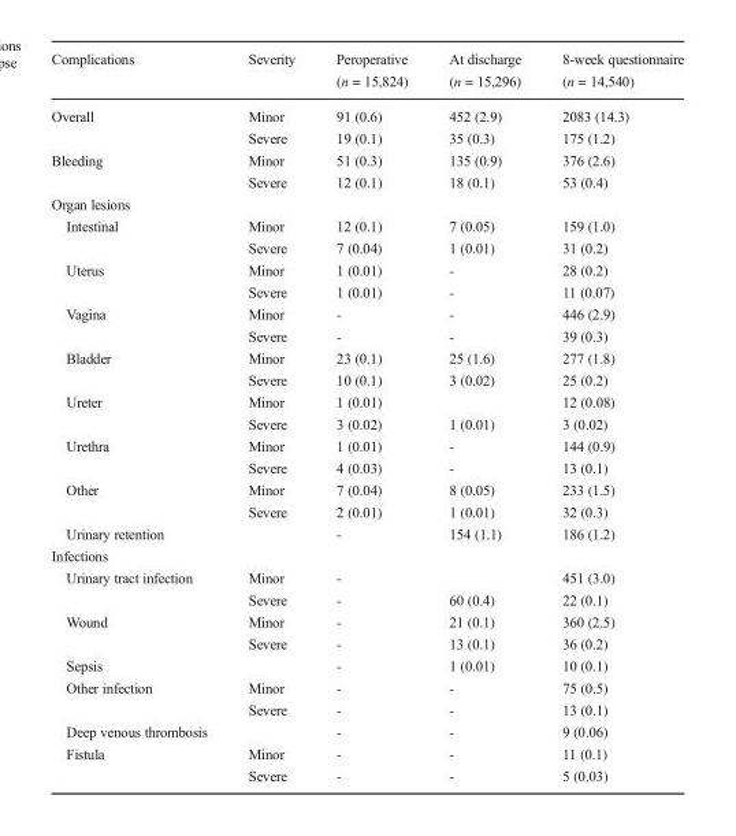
<table><thead><tr><td>Complications</td><td>Severity</td><td>Peroperative (n = 15,824)</td><td>At discharge (n = 15,296)</td><td>8-week questionnaire (n = 14,540)</td></tr></thead><tbody><tr><td rowspan="2">Overall</td><td>Minor</td><td>91 (0.6)</td><td>452 (2.9)</td><td>2083 (14.3)</td></tr><tr><td>Severe</td><td>19 (0.1)</td><td>35 (0.3)</td><td>175 (1.2)</td></tr><tr><td rowspan="2">Bleeding</td><td>Minor</td><td>51 (0.3)</td><td>135 (0.9)</td><td>376 (2.6)</td></tr><tr><td>Severe</td><td>12 (0.1)</td><td>18 (0.1)</td><td>53 (0.4)</td></tr><tr><td colspan="5">Organ lesions</td></tr><tr><td rowspan="2">Intestinal</td><td>Minor</td><td>12 (0.1)</td><td>7 (0.05)</td><td>159 (1.0)</td></tr><tr><td>Severe</td><td>7 (0.04)</td><td>1 (0.01)</td><td>31 (0.2)</td></tr><tr><td rowspan="2">Uterus</td><td>Minor</td><td>1 (0.01)</td><td>-</td><td>28 (0.2)</td></tr><tr><td>Severe</td><td>1 (0.01)</td><td>-</td><td>11 (0.07)</td></tr><tr><td rowspan="2">Vagina</td><td>Minor</td><td>-</td><td>-</td><td>446 (2.9)</td></tr><tr><td>Severe</td><td>-</td><td>-</td><td>39 (0.3)</td></tr><tr><td rowspan="2">Bladder</td><td>Minor</td><td>23 (0.1)</td><td>25 (1.6)</td><td>277 (1.8)</td></tr><tr><td>Severe</td><td>10 (0.1)</td><td>3 (0.02)</td><td>25 (0.2)</td></tr><tr><td rowspan="2">Ureter</td><td>Minor</td><td>1 (0.01)</td><td></td><td>12 (0.08)</td></tr><tr><td>Severe</td><td>3 (0.02)</td><td>1 (0.01)</td><td>3 (0.02)</td></tr><tr><td rowspan="2">Urethra</td><td>Minor</td><td>1 (0.01)</td><td>-</td><td>144 (0.9)</td></tr><tr><td>Severe</td><td>4 (0.03)</td><td>-</td><td>13 (0.1)</td></tr><tr><td rowspan="2">Other</td><td>Minor</td><td>7 (0.04)</td><td>8 (0.05)</td><td>233 (1.5)</td></tr><tr><td>Severe</td><td>2 (0.01)</td><td>1 (0.01)</td><td>32 (0.3)</td></tr><tr><td>Urinary retention</td><td></td><td>-</td><td>154 (1.1)</td><td>186 (1.2)</td></tr><tr><td colspan="5">Infections</td></tr><tr><td rowspan="2">Urinary tract infection</td><td>Minor</td><td>-</td><td></td><td>451 (3.0)</td></tr><tr><td>Severe</td><td>-</td><td>60 (0.4)</td><td>22 (0.1)</td></tr><tr><td rowspan="2">Wound</td><td>Minor</td><td>-</td><td>21 (0.1)</td><td>360 (2.5)</td></tr><tr><td>Severe</td><td>-</td><td>13 (0.1)</td><td>36 (0.2)</td></tr><tr><td>Sepsis</td><td></td><td>-</td><td>1 (0.01)</td><td>10 (0.1)</td></tr><tr><td rowspan="2">Other infection</td><td>Minor</td><td>-</td><td>-</td><td>75 (0.5)</td></tr><tr><td>Severe</td><td>-</td><td>-</td><td>13 (0.1)</td></tr><tr><td>Deep venous thrombosis</td><td></td><td>-</td><td>-</td><td>9 (0.06)</td></tr><tr><td rowspan="2">Fistula</td><td>Minor</td><td>-</td><td>-</td><td>11 (0.1)</td></tr><tr><td>Severe</td><td>-</td><td>-</td><td>5 (0.03)</td></tr></tbody></table>